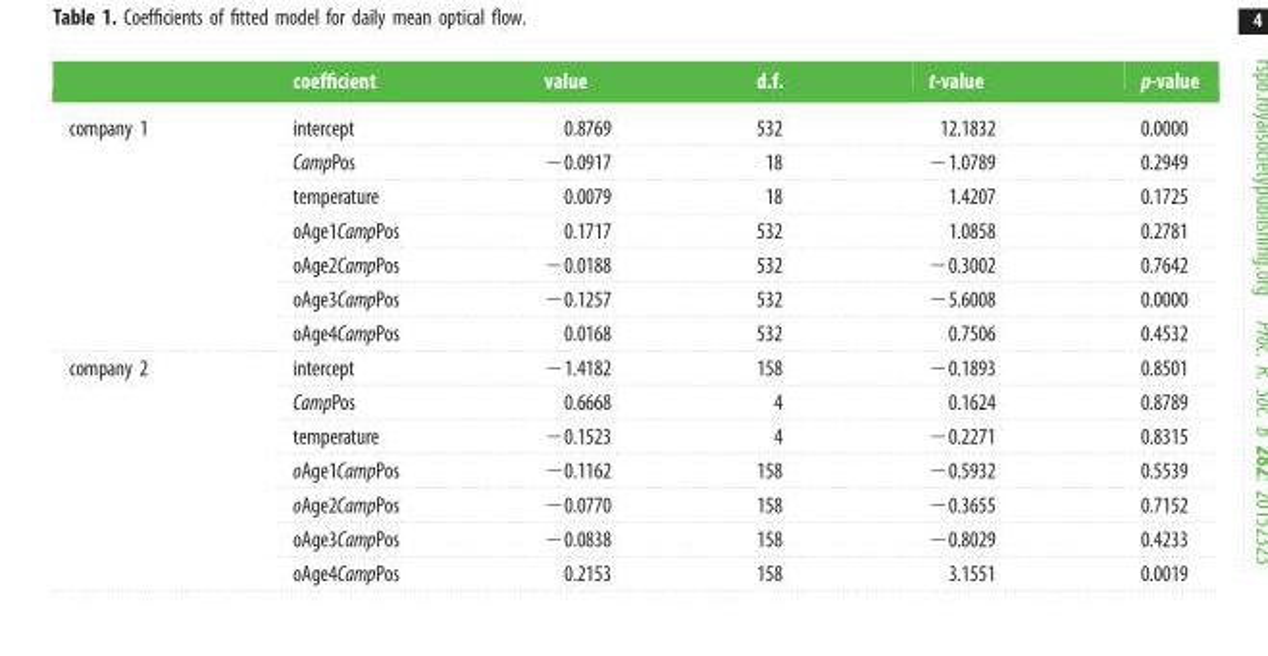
<table><thead><tr><td></td><td>coefficient</td><td>value</td><td>d.f.</td><td>t-value</td><td>p-value</td></tr></thead><tbody><tr><td rowspan="7">company 1</td><td>intercept</td><td>0.8769</td><td>532</td><td>12.1832</td><td>0.0000</td></tr><tr><td>CampPos</td><td>−0.0917</td><td>18</td><td>−1.0789</td><td>0.2949</td></tr><tr><td>temperature</td><td>0.0079</td><td>18</td><td>1.4207</td><td>0.1725</td></tr><tr><td>oAge1CampPos</td><td>0.1717</td><td>532</td><td>1.0858</td><td>0.2781</td></tr><tr><td>oAge2CampPos</td><td>−0.0188</td><td>532</td><td>−0.3002</td><td>0.7642</td></tr><tr><td>oAge3CampPos</td><td>−0.1257</td><td>532</td><td>−5.6008</td><td>0.0000</td></tr><tr><td>oAge4CampPos</td><td>0.0168</td><td>532</td><td>0.7506</td><td>0.4532</td></tr><tr><td rowspan="7">company 2</td><td>intercept</td><td>−1.4182</td><td>158</td><td>−0.1893</td><td>0.8501</td></tr><tr><td>CampPos</td><td>0.6668</td><td>4</td><td>0.1624</td><td>0.8789</td></tr><tr><td>temperature</td><td>−0.1523</td><td>4</td><td>−0.2271</td><td>0.8315</td></tr><tr><td>oAge1CampPos</td><td>−0.1162</td><td>158</td><td>−0.5932</td><td>0.5539</td></tr><tr><td>oAge2CampPos</td><td>−0.0770</td><td>158</td><td>−0.3655</td><td>0.7152</td></tr><tr><td>oAge3CampPos</td><td>−0.0838</td><td>158</td><td>−0.8029</td><td>0.4233</td></tr><tr><td>oAge4CampPos</td><td>0.2153</td><td>158</td><td>3.1551</td><td>0.0019</td></tr></tbody></table>